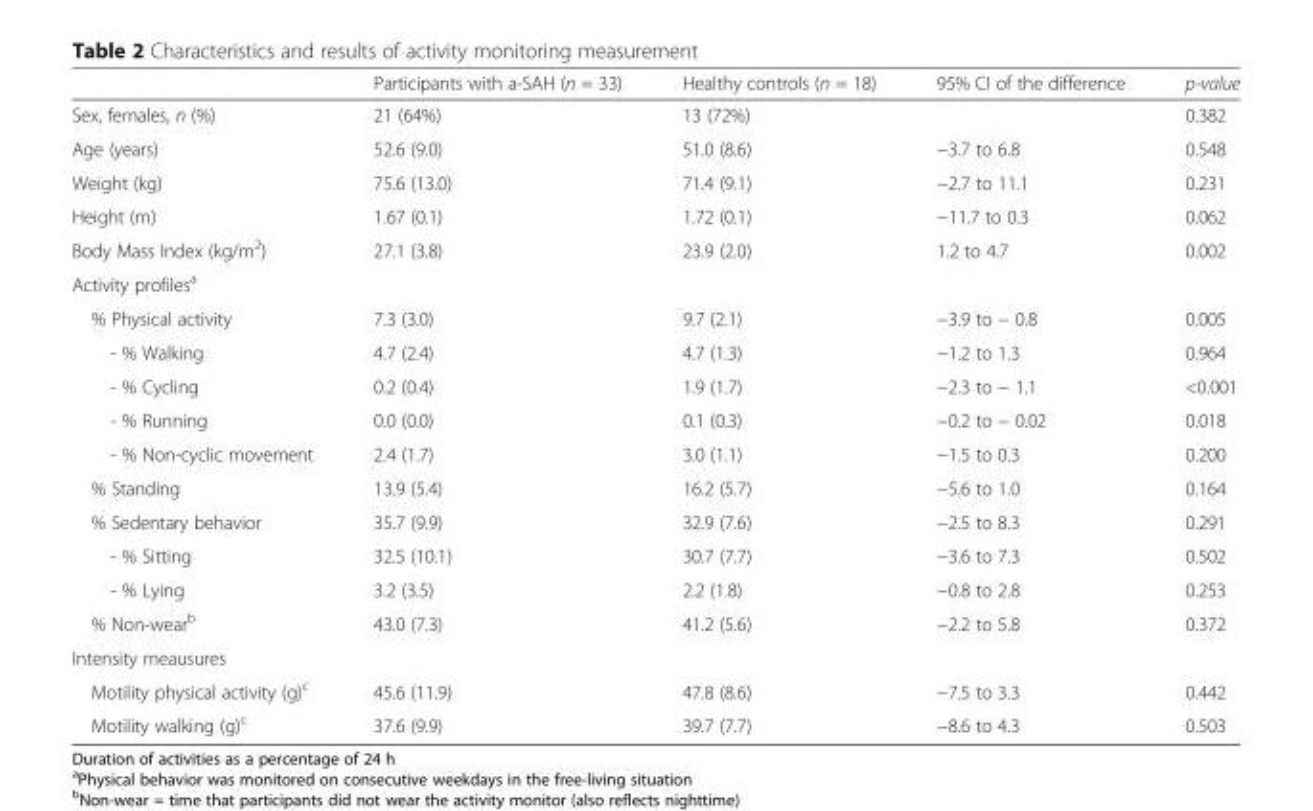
<table><thead><tr><td></td><td>Participants with a-SAH (n = 33)</td><td>Healthy controls (n = 18)</td><td>95% CI of the difference</td><td>p-value</td></tr></thead><tbody><tr><td>Sex, females, n (%)</td><td>21 (64%)</td><td>13 (72%)</td><td></td><td>0.382</td></tr><tr><td>Age (years)</td><td>52.6 (9.0)</td><td>51.0 (8.6)</td><td>−3.7 to 6.8</td><td>0.548</td></tr><tr><td>Weight (kg)</td><td>75.6 (13.0)</td><td>71.4 (9.1)</td><td>−2.7 to 11.1</td><td>0.231</td></tr><tr><td>Height (m)</td><td>1.67 (0.1)</td><td>1.72 (0.1)</td><td>−11.7 to 0.3</td><td>0.062</td></tr><tr><td>Body Mass Index (kg/m<sup>2</sup>)</td><td>27.1 (3.8)</td><td>23.9 (2.0)</td><td>1.2 to 4.7</td><td>0.002</td></tr><tr><td colspan="5">Activity profiles<sup>a</sup></td></tr><tr><td>% Physical activity</td><td>7.3 (3.0)</td><td>9.7 (2.1)</td><td>−3.9 to − 0.8</td><td>0.005</td></tr><tr><td>- % Walking</td><td>4.7 (2.4)</td><td>4.7 (1.3)</td><td>−1.2 to 1.3</td><td>0.964</td></tr><tr><td>- % Cycling</td><td>0.2 (0.4)</td><td>1.9 (1.7)</td><td>−2.3 to − 1.1</td><td>&lt;0.001</td></tr><tr><td>- % Running</td><td>0.0 (0.0)</td><td>0.1 (0.3)</td><td>−0.2 to − 0.02</td><td>0.018</td></tr><tr><td>- % Non-cyclic movement</td><td>2.4 (1.7)</td><td>3.0 (1.1)</td><td>−1.5 to 0.3</td><td>0.200</td></tr><tr><td>% Standing</td><td>13.9 (5.4)</td><td>16.2 (5.7)</td><td>−5.6 to 1.0</td><td>0.164</td></tr><tr><td>% Sedentary behavior</td><td>35.7 (9.9)</td><td>32.9 (7.6)</td><td>−2.5 to 8.3</td><td>0.291</td></tr><tr><td>- % Sitting</td><td>32.5 (10.1)</td><td>30.7 (7.7)</td><td>−3.6 to 7.3</td><td>0.502</td></tr><tr><td>- % Lying</td><td>3.2 (3.5)</td><td>2.2 (1.8)</td><td>−0.8 to 2.8</td><td>0.253</td></tr><tr><td>% Non-wear<sup>b</sup></td><td>43.0 (7.3)</td><td>41.2 (5.6)</td><td>−2.2 to 5.8</td><td>0.372</td></tr><tr><td colspan="5">Intensity meausures</td></tr><tr><td>Motility physical activity (g)<sup>c</sup></td><td>45.6 (11.9)</td><td>47.8 (8.6)</td><td>−7.5 to 3.3</td><td>0.442</td></tr><tr><td>Motility walking (g)<sup>c</sup></td><td>37.6 (9.9)</td><td>39.7 (7.7)</td><td>−8.6 to 4.3</td><td>0.503</td></tr></tbody></table>